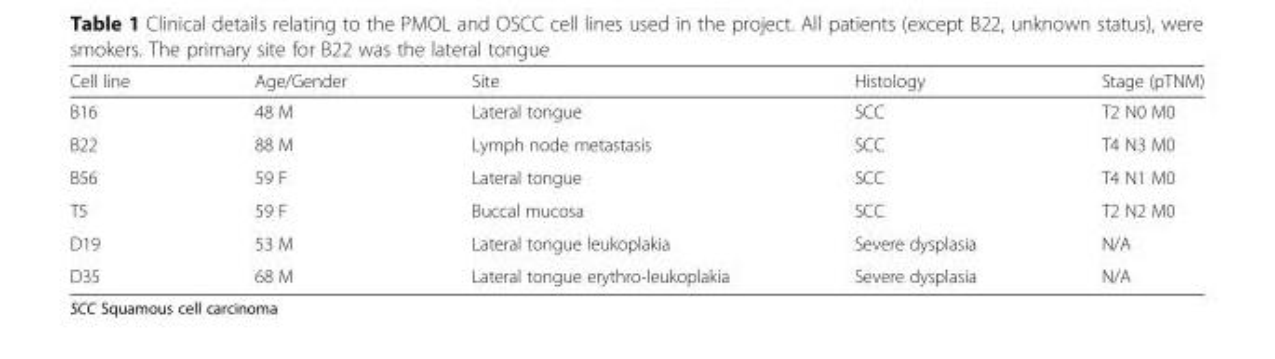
<table><thead><tr><td>Cell line</td><td>Age/Gender</td><td>Site</td><td>Histology</td><td>Stage (pTNM)</td></tr></thead><tbody><tr><td>B16</td><td>48 M</td><td>Lateral tongue</td><td>SCC</td><td>T2 N0 M0</td></tr><tr><td>B22</td><td>88 M</td><td>Lymph node metastasis</td><td>SCC</td><td>T4 N3 M0</td></tr><tr><td>B56</td><td>59 F</td><td>Lateral tongue</td><td>SCC</td><td>T4 N1 M0</td></tr><tr><td>T5</td><td>59 F</td><td>Buccal mucosa</td><td>SCC</td><td>T2 N2 M0</td></tr><tr><td>D19</td><td>53 M</td><td>Lateral tongue leukoplakia</td><td>Severe dysplasia</td><td>N/A</td></tr><tr><td>D35</td><td>68 M</td><td>Lateral tongue erythro-leukoplakia</td><td>Severe dysplasia</td><td>N/A</td></tr></tbody></table>